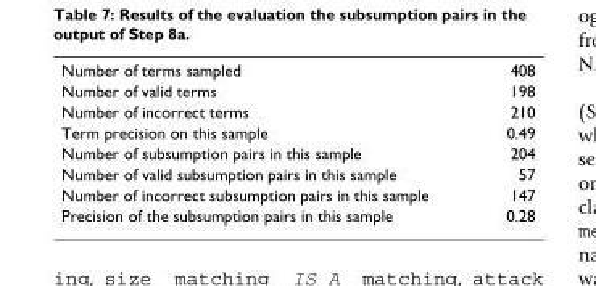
<table><tbody><tr><td>Number of terms sampled</td><td>408</td></tr><tr><td>Number of valid terms</td><td>198</td></tr><tr><td>Number of incorrect terms</td><td>210</td></tr><tr><td>Term precision on this sample</td><td>0.49</td></tr><tr><td>Number of subsumption pairs in this sample</td><td>204</td></tr><tr><td>Number of valid subsumption pairs in this sample</td><td>57</td></tr><tr><td>Number of incorrect subsumption pairs in this sample</td><td>147</td></tr><tr><td>Precision of the subsumption pairs in this sample</td><td>0.28</td></tr></tbody></table>